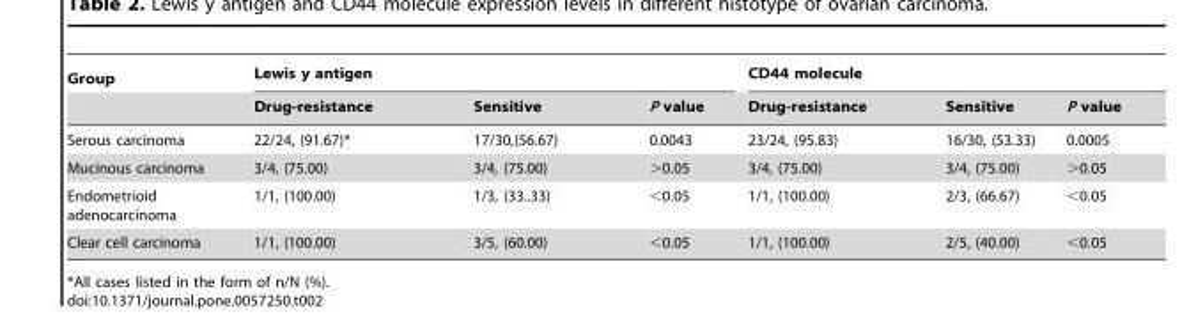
<table><thead><tr><td rowspan="2">Group</td><td colspan="3">Lewis y antigen</td><td colspan="3">CD44 molecule</td></tr><tr><td>Drug-resistance</td><td>Sensitive</td><td>P value</td><td>Drug-resistance</td><td>Sensitive</td><td>P value</td></tr></thead><tbody><tr><td>Serous carcinoma</td><td>22/24, (91.67)*</td><td>17/30,(56.67)</td><td>0.0043</td><td>23/24, (95.83)</td><td>16/30, (53.33)</td><td>0.0005</td></tr><tr><td>Mucinous carcinoma</td><td>3/4, (75.00)</td><td>3/4, (75.00)</td><td>&gt;0.05</td><td>3/4, (75.00)</td><td>3/4, (75.00)</td><td>&gt;0.05</td></tr><tr><td>Endometrioid adenocarcinoma</td><td>1/1, (100.00)</td><td>1/3, (33..33)</td><td>&lt;0.05</td><td>1/1, (100.00)</td><td>2/3, (66.67)</td><td>&lt;0.05</td></tr><tr><td>Clear cell carcinoma</td><td>1/1, (100.00)</td><td>3/5, (60.00)</td><td>&lt;0.05</td><td>1/1, (100.00)</td><td>2/5, (40.00)</td><td>&lt;0.05</td></tr></tbody></table>